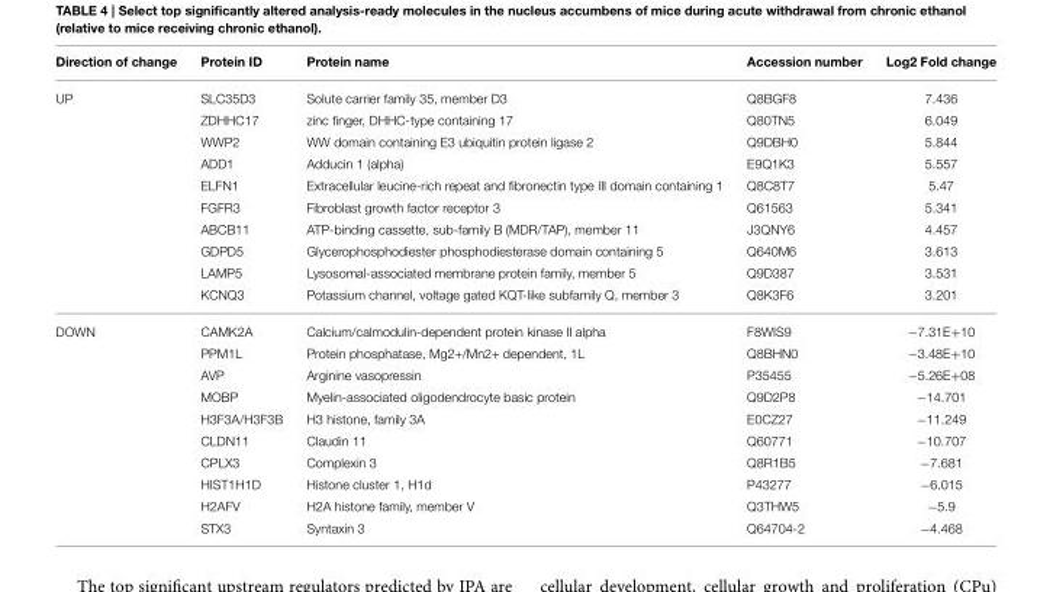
<table><thead><tr><td>Direction of change</td><td>Protein ID</td><td>Protein name</td><td>Accession number</td><td>Log2 Fold change</td></tr></thead><tbody><tr><td rowspan="10">UP</td><td>SLC35D3</td><td>Solute carrier family 35, member D3</td><td>Q8BGF8</td><td>7.436</td></tr><tr><td>ZDHHC17</td><td>zinc finger, DHHC-type containing 17</td><td>Q80TN5</td><td>6.049</td></tr><tr><td>WWP2</td><td>WW domain containing E3 ubiquitin protein ligase 2</td><td>Q9DBH0</td><td>5.844</td></tr><tr><td>ADD1</td><td>Adducin 1 (alpha)</td><td>E9Q1K3</td><td>5.557</td></tr><tr><td>ELFN1</td><td>Extracellular leucine-rich repeat and fibronectin type III domain containing 1</td><td>Q8C8T7</td><td>5.47</td></tr><tr><td>FGFR3</td><td>Fibroblast growth factor receptor 3</td><td>Q61563</td><td>5.341</td></tr><tr><td>ABCB11</td><td>ATP-binding cassette, sub-family B (MDR/TAP), member 11</td><td>J3QNY6</td><td>4.457</td></tr><tr><td>GDPD5</td><td>Glycerophosphodiester phosphodiesterase domain containing 5</td><td>Q640M6</td><td>3.613</td></tr><tr><td>LAMP5</td><td>Lysosomal-associated membrane protein family, member 5</td><td>Q9D387</td><td>3.531</td></tr><tr><td>KCNQ3</td><td>Potassium channel, voltage gated KQT-like subfamily Q, member 3</td><td>Q8K3F6</td><td>3.201</td></tr><tr><td rowspan="10">DOWN</td><td>CAMK2A</td><td>Calcium/calmodulin-dependent protein kinase II alpha</td><td>F8WIS9</td><td>−7.31E+10</td></tr><tr><td>PPM1L</td><td>Protein phosphatase, Mg2+/Mn2+ dependent, 1L</td><td>Q8BHN0</td><td>−3.48E+10</td></tr><tr><td>AVP</td><td>Arginine vasopressin</td><td>P35455</td><td>−5.26E+08</td></tr><tr><td>MOBP</td><td>Myelin-associated oligodendrocyte basic protein</td><td>Q9D2P8</td><td>−14.701</td></tr><tr><td>H3F3A/H3F3B</td><td>H3 histone, family 3A</td><td>E0CZ27</td><td>−11.249</td></tr><tr><td>CLDN11</td><td>Claudin 11</td><td>Q60771</td><td>−10.707</td></tr><tr><td>CPLX3</td><td>Complexin 3</td><td>Q8R1B5</td><td>−7.681</td></tr><tr><td>HIST1H1D</td><td>Histone cluster 1, H1d</td><td>P43277</td><td>−6.015</td></tr><tr><td>H2AFV</td><td>H2A histone family, member V</td><td>Q3THW5</td><td>−5.9</td></tr><tr><td>STX3</td><td>Syntaxin 3</td><td>Q64704-2</td><td>−4.468</td></tr></tbody></table>